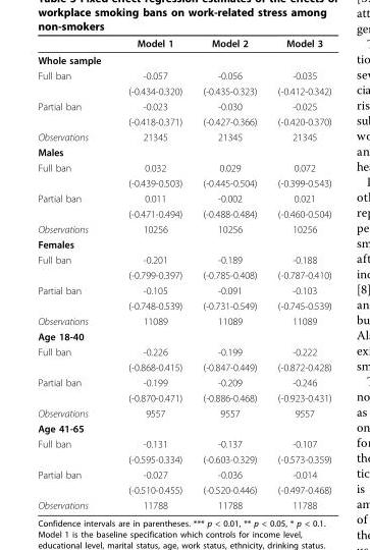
<table><thead><tr><td></td><td>Model 1</td><td>Model 2</td><td>Model 3</td></tr></thead><tbody><tr><td colspan="4">Whole sample</td></tr><tr><td rowspan="2">Full ban</td><td>-0.057</td><td>-0.056</td><td>-0.035</td></tr><tr><td>(-0.434-0.320)</td><td>(-0.435-0.323)</td><td>(-0.412-0.342)</td></tr><tr><td rowspan="2">Partial ban</td><td>-0.023</td><td>-0.030</td><td>-0.025</td></tr><tr><td>(-0.418-0.371)</td><td>(-0.427-0.366)</td><td>(-0.420-0.370)</td></tr><tr><td>Observations</td><td>21345</td><td>21345</td><td>21345</td></tr><tr><td colspan="4">Males</td></tr><tr><td rowspan="2">Full ban</td><td>0.032</td><td>0.029</td><td>0.072</td></tr><tr><td>(-0.439-0.503)</td><td>(-0.445-0.504)</td><td>(-0.399-0.543)</td></tr><tr><td rowspan="2">Partial ban</td><td>0.011</td><td>-0.002</td><td>0.021</td></tr><tr><td>(-0.471-0.494)</td><td>(-0.488-0.484)</td><td>(-0.460-0.504)</td></tr><tr><td>Observations</td><td>10256</td><td>10256</td><td>10256</td></tr><tr><td colspan="4">Females</td></tr><tr><td rowspan="2">Full ban</td><td>-0.201</td><td>-0.189</td><td>-0.188</td></tr><tr><td>(-0.799-0.397)</td><td>(-0.785-0.408)</td><td>(-0.787-0.410)</td></tr><tr><td rowspan="2">Partial ban</td><td>-0.105</td><td>-0.091</td><td>-0.103</td></tr><tr><td>(-0.748-0.539)</td><td>(-0.731-0.549)</td><td>(-0.745-0.539)</td></tr><tr><td>Observations</td><td>11089</td><td>11089</td><td>11089</td></tr><tr><td colspan="4">Age 18-40</td></tr><tr><td rowspan="2">Full ban</td><td>-0.226</td><td>-0.199</td><td>-0.222</td></tr><tr><td>(-0.868-0.415)</td><td>(-0.847-0.449)</td><td>(-0.872-0.428)</td></tr><tr><td rowspan="2">Partial ban</td><td>-0.199</td><td>-0.209</td><td>-0.246</td></tr><tr><td>(-0.870-0.471)</td><td>(-0.886-0.468)</td><td>(-0.923-0.431)</td></tr><tr><td>Observations</td><td>9557</td><td>9557</td><td>9557</td></tr><tr><td colspan="4">Age 41-65</td></tr><tr><td rowspan="2">Full ban</td><td>-0.131</td><td>-0.137</td><td>-0.107</td></tr><tr><td>(-0.595-0.334)</td><td>(-0.603-0.329)</td><td>(-0.573-0.359)</td></tr><tr><td rowspan="2">Partial ban</td><td>-0.027</td><td>-0.036</td><td>-0.014</td></tr><tr><td>(-0.510-0.455)</td><td>(-0.520-0.446)</td><td>(-0.497-0.468)</td></tr><tr><td>Observations</td><td>11788</td><td>11788</td><td>11788</td></tr></tbody></table>